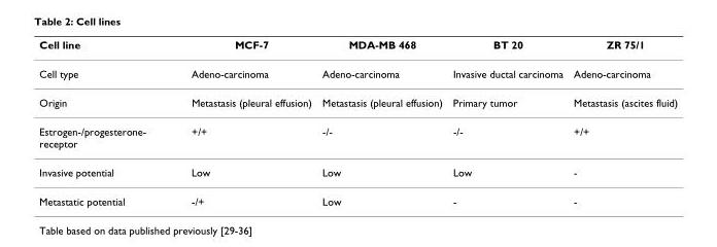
<table><thead><tr><td>Cell line</td><td>MCF-7</td><td>MDA-MB 468</td><td>BT 20</td><td>ZR 75/1</td></tr></thead><tbody><tr><td>Cell type</td><td>Adeno-carcinoma</td><td>Adeno-carcinoma</td><td>Invasive ductal carcinoma</td><td>Adeno-carcinoma</td></tr><tr><td>Origin</td><td>Metastasis (pleural effusion)</td><td>Metastasis (pleural effusion)</td><td>Primary tumor</td><td>Metastasis (ascites fluid)</td></tr><tr><td>Estrogen-/progesterone- receptor</td><td>+/+</td><td>-/-</td><td>-/-</td><td>+/+</td></tr><tr><td>Invasive potential</td><td>Low</td><td>Low</td><td>Low</td><td>-</td></tr><tr><td>Metastatic potential</td><td>-/+</td><td>Low</td><td>-</td><td>-</td></tr></tbody></table>